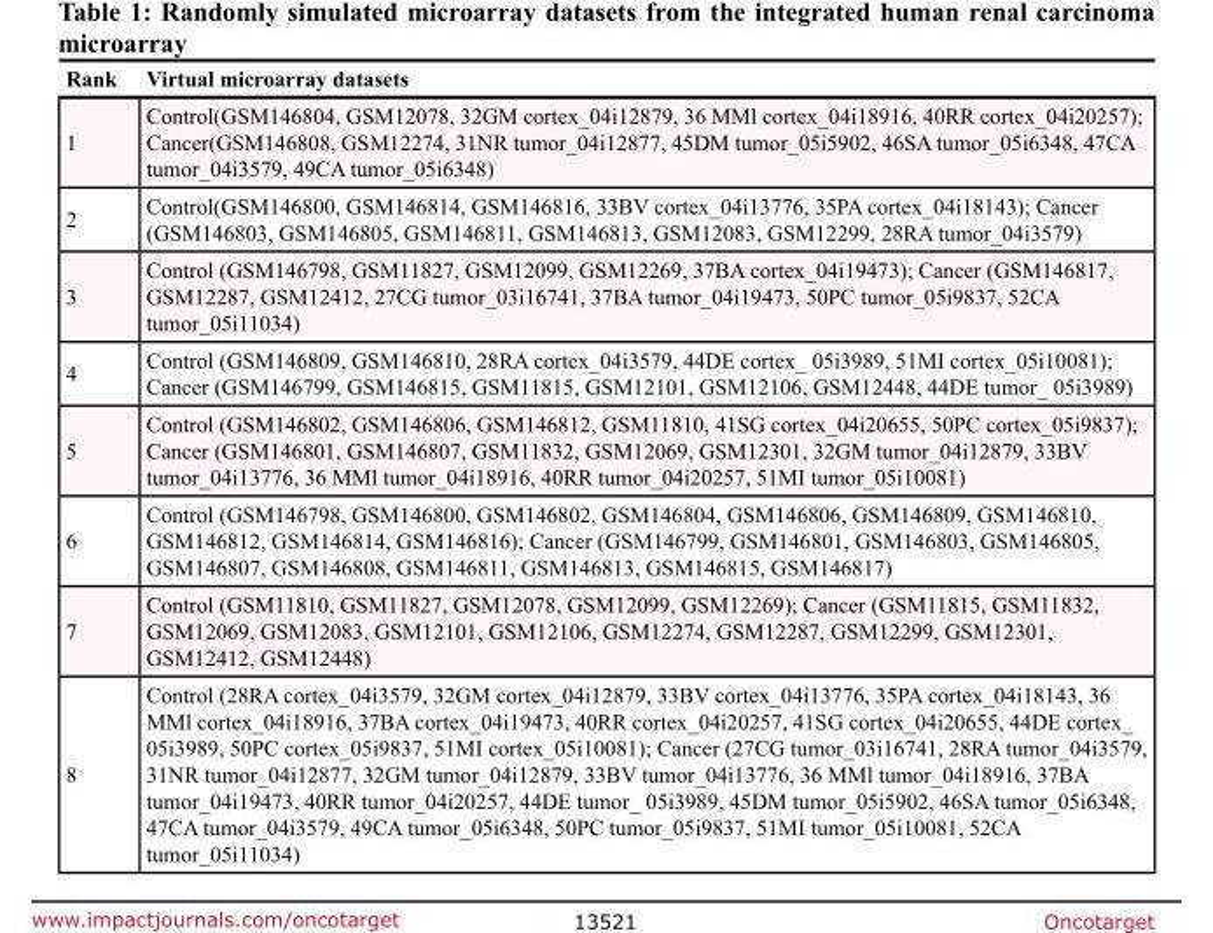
<table><thead><tr><td>Rank</td><td>Virtual microarray datasets</td></tr></thead><tbody><tr><td>1</td><td>Control(GSM146804, GSM12078, 32GM cortex_04i12879, 36 MMl cortex_04i18916, 40RR cortex_04i20257); Cancer(GSM146808, GSM12274, 31NR tumor_04i12877, 45DM tumor_05i5902, 46SA tumor_05i6348, 47CA tumor_04i3579, 49CA tumor_05i6348)</td></tr><tr><td>2</td><td>Control(GSM146800, GSM146814, GSM146816, 33BV cortex_04i13776, 35PA cortex_04i18143); Cancer (GSM146803, GSM146805, GSM146811, GSM146813, GSM12083, GSM12299, 28RA tumor_04i3579)</td></tr><tr><td>3</td><td>Control (GSM146798, GSM11827, GSM12099, GSM12269, 37BA cortex_04i19473); Cancer (GSM146817, GSM12287, GSM12412, 27CG tumor_03i16741, 37BA tumor_04i19473, 50PC tumor_05i9837, 52CA tumor_05i11034)</td></tr><tr><td>4</td><td>Control (GSM146809, GSM146810, 28RA cortex_04i3579, 44DE cortex_ 05i3989, 51MI cortex_05i10081); Cancer (GSM146799, GSM146815, GSM11815, GSM12101, GSM12106, GSM12448, 44DE tumor_ 05i3989)</td></tr><tr><td>5</td><td>Control (GSM146802, GSM146806, GSM146812, GSM11810, 41SG cortex_04i20655, 50PC cortex_05i9837); Cancer (GSM146801, GSM146807, GSM11832, GSM12069, GSM12301, 32GM tumor_04i12879, 33BV tumor_04i13776, 36 MMl tumor_04i18916, 40RR tumor_04i20257, 51MI tumor_05i10081)</td></tr><tr><td>6</td><td>Control (GSM146798, GSM146800, GSM146802, GSM146804, GSM146806, GSM146809, GSM146810, GSM146812, GSM146814, GSM146816); Cancer (GSM146799, GSM146801, GSM146803, GSM146805, GSM146807, GSM146808, GSM146811, GSM146813, GSM146815, GSM146817)</td></tr><tr><td>7</td><td>Control (GSM11810, GSM11827, GSM12078, GSM12099, GSM12269); Cancer (GSM11815, GSM11832, GSM12069, GSM12083, GSM12101, GSM12106, GSM12274, GSM12287, GSM12299, GSM12301, GSM12412, GSM12448)</td></tr><tr><td>8</td><td>Control (28RA cortex_04i3579, 32GM cortex_04i12879, 33BV cortex_04i13776, 35PA cortex_04i18143, 36 MMl cortex_04i18916, 37BA cortex_04i19473, 40RR cortex_04i20257, 41SG cortex_04i20655, 44DE cortex_ 05i3989, 50PC cortex_05i9837, 51MI cortex_05i10081); Cancer (27CG tumor_03i16741, 28RA tumor_04i3579, 31NR tumor_04i12877, 32GM tumor_04i12879, 33BV tumor_04i13776, 36 MMl tumor_04i18916, 37BA tumor_04i19473, 40RR tumor_04i20257, 44DE tumor_ 05i3989, 45DM tumor_05i5902, 46SA tumor_05i6348, 47CA tumor_04i3579, 49CA tumor_05i6348, 50PC tumor_05i9837, 51MI tumor_05i10081, 52CA tumor_05i11034)</td></tr></tbody></table>